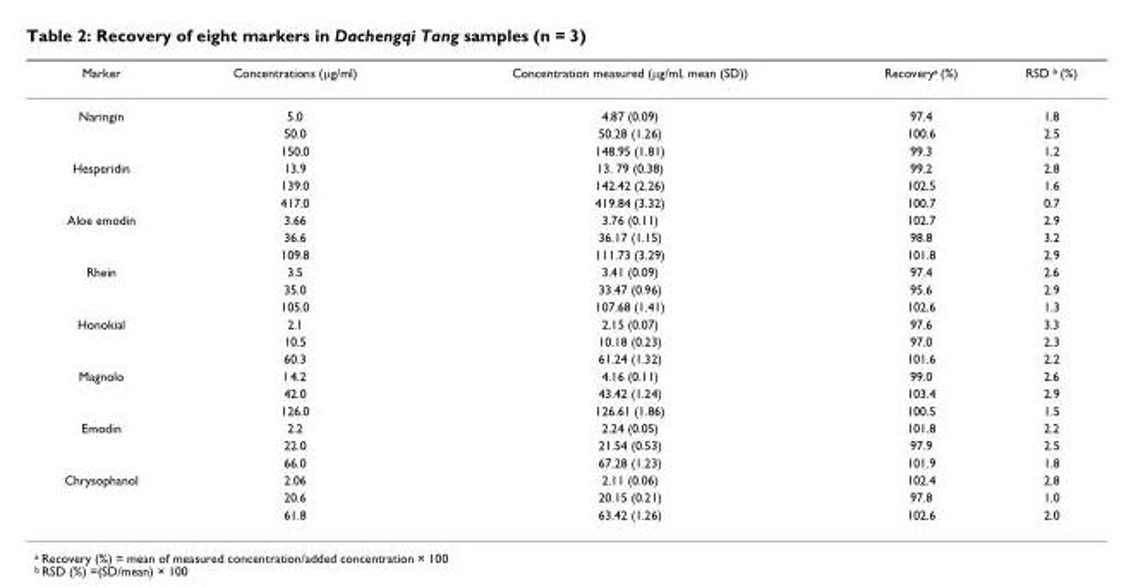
<table><thead><tr><td>Marker</td><td>Concentrations (µg/ml)</td><td>Concentration measured (µg/ml, mean (SD))</td><td>Recovery<sup>a</sup> (%)</td><td>RSD <sup>b</sup> (%)</td></tr></thead><tbody><tr><td rowspan="3">Naringin</td><td>5.0</td><td>4.87 (0.09)</td><td>97.4</td><td>1.8</td></tr><tr><td>50.0</td><td>50.28 (1.26)</td><td>100.6</td><td>2.5</td></tr><tr><td>150.0</td><td>148.95 (1.81)</td><td>99.3</td><td>1.2</td></tr><tr><td rowspan="3">Hesperidin</td><td>13.9</td><td>13. 79 (0.38)</td><td>99.2</td><td>2.8</td></tr><tr><td>139.0</td><td>142.42 (2.26)</td><td>102.5</td><td>1.6</td></tr><tr><td>417.0</td><td>419.84 (3.32)</td><td>100.7</td><td>0.7</td></tr><tr><td rowspan="3">Aloe emodin</td><td>3.66</td><td>3.76 (0.11)</td><td>102.7</td><td>2.9</td></tr><tr><td>36.6</td><td>36.17 (1.15)</td><td>98.8</td><td>3.2</td></tr><tr><td>109.8</td><td>111.73 (3.29)</td><td>101.8</td><td>2.9</td></tr><tr><td rowspan="3">Rhein</td><td>3.5</td><td>3.41 (0.09)</td><td>97.4</td><td>2.6</td></tr><tr><td>35.0</td><td>33.47 (0.96)</td><td>95.6</td><td>2.9</td></tr><tr><td>105.0</td><td>107.68 (1.41)</td><td>102.6</td><td>1.3</td></tr><tr><td rowspan="3">Honokial</td><td>2.1</td><td>2.15 (0.07)</td><td>97.6</td><td>3.3</td></tr><tr><td>10.5</td><td>10.18 (0.23)</td><td>97.0</td><td>2.3</td></tr><tr><td>60.3</td><td>61.24 (1.32)</td><td>101.6</td><td>2.2</td></tr><tr><td rowspan="3">Magnolo</td><td>l 4.2</td><td>4.16 (0.11)</td><td>99.0</td><td>2.6</td></tr><tr><td>42.0</td><td>43.42 (1.24)</td><td>103.4</td><td>2.9</td></tr><tr><td>126.0</td><td>126.61 (1.86)</td><td>100.5</td><td>1.5</td></tr><tr><td rowspan="3">Emodin</td><td>2.2</td><td>2.24 (0.05)</td><td>101.8</td><td>2.2</td></tr><tr><td>22.0</td><td>21.54 (0.53)</td><td>97.9</td><td>2.5</td></tr><tr><td>66.0</td><td>67.28 (1.23)</td><td>101.9</td><td>1.8</td></tr><tr><td rowspan="3">Chrysophanol</td><td>2.06</td><td>2.11 (0.06)</td><td>102.4</td><td>2.8</td></tr><tr><td>20.6</td><td>20.15 (0.21)</td><td>97.8</td><td>1.0</td></tr><tr><td>61.8</td><td>63.42 (1.26)</td><td>102.6</td><td>2.0</td></tr></tbody></table>